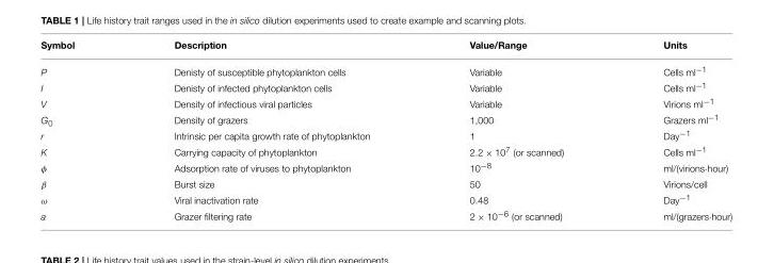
<table><thead><tr><td>Symbol</td><td>Description</td><td>Value/Range</td><td>Units</td></tr></thead><tbody><tr><td>P</td><td>Denisty of susceptible phytoplankton cells</td><td>Variable</td><td>Cells ml<sup>−1</sup></td></tr><tr><td>I</td><td>Denisty of infected phytoplankton cells</td><td>Variable</td><td>Cells ml<sup>−1</sup></td></tr><tr><td>V</td><td>Density of infectious viral particles</td><td>Variable</td><td>Virions ml<sup>−1</sup></td></tr><tr><td>G<sub>0</sub></td><td>Density of grazers</td><td>1,000</td><td>Grazers ml<sup>−1</sup></td></tr><tr><td>r</td><td>Intrinsic per capita growth rate of phytoplankton</td><td>1</td><td>Day<sup>−1</sup></td></tr><tr><td>K</td><td>Carrying capacity of phytoplankton</td><td>2.2 × 10<sup>7</sup> (or scanned)</td><td>Cells ml<sup>−1</sup></td></tr><tr><td>φ</td><td>Adsorption rate of viruses to phytoplankton</td><td>10<sup>−8</sup></td><td>ml/(virions·hour)</td></tr><tr><td>β</td><td>Burst size</td><td>50</td><td>Virions/cell</td></tr><tr><td>ω</td><td>Viral inactivation rate</td><td>0.48</td><td>Day<sup>−1</sup></td></tr><tr><td>a</td><td>Grazer filtering rate</td><td>2 × 10<sup>−6</sup> (or scanned)</td><td>ml/(grazers·hour)</td></tr></tbody></table>